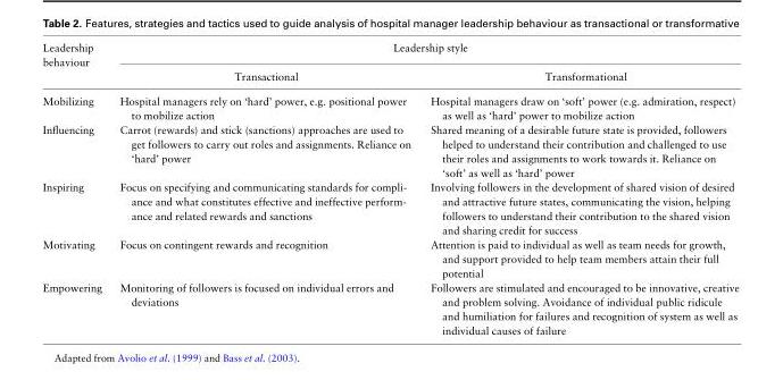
<table><thead><tr><td rowspan="2">Leadership behaviour</td><td colspan="2">Leadership style</td></tr><tr><td>Transactional</td><td>Transformational</td></tr></thead><tbody><tr><td>Mobilizing</td><td>Hospital managers rely on ‘hard’ power, e.g. positional power to mobilize action</td><td>Hospital managers draw on ‘soft’ power (e.g. admiration, respect) as well as ‘hard’ power to mobilize action</td></tr><tr><td>Influencing</td><td>Carrot (rewards) and stick (sanctions) approaches are used to get followers to carry out roles and assignments. Reliance on ‘hard’ power</td><td>Shared meaning of a desirable future state is provided, followers helped to understand their contribution and challenged to use their roles and assignments to work towards it. Reliance on ‘soft’ as well as ‘hard’ power</td></tr><tr><td>Inspiring</td><td>Focus on specifying and communicating standards for compli- ance and what constitutes effective and ineffective perform- ance and related rewards and sanctions</td><td>Involving followers in the development of shared vision of desired and attractive future states, communicating the vision, helping followers to understand their contribution to the shared vision and sharing credit for success</td></tr><tr><td>Motivating</td><td>Focus on contingent rewards and recognition</td><td>Attention is paid to individual as well as team needs for growth, and support provided to help team members attain their full potential</td></tr><tr><td>Empowering</td><td>Monitoring of followers is focused on individual errors and deviations</td><td>Followers are stimulated and encouraged to be innovative, creative and problem solving. Avoidance of individual public ridicule and humiliation for failures and recognition of system as well as individual causes of failure</td></tr></tbody></table>